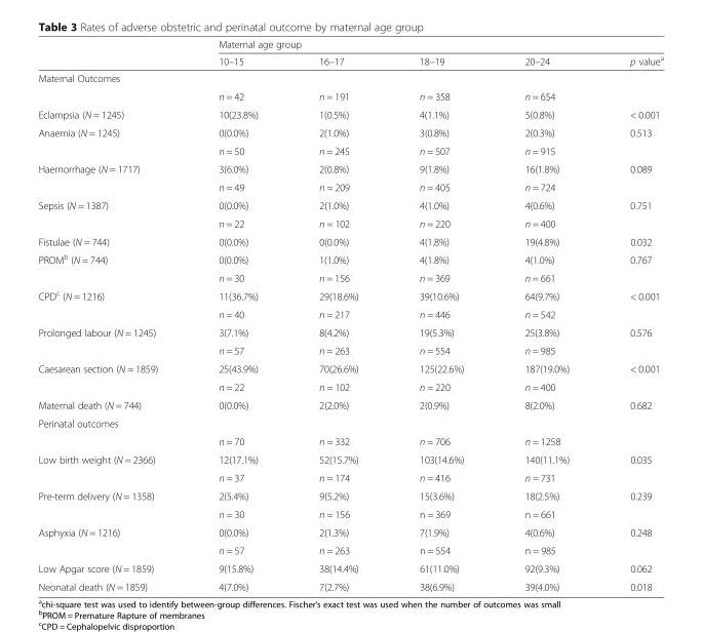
<table><thead><tr><td rowspan="2"></td><td colspan="5">Maternal age group</td></tr><tr><td>10–15</td><td>16–17</td><td>18–19</td><td>20–24</td><td>p value<sup>a</sup></td></tr></thead><tbody><tr><td colspan="6">Maternal Outcomes</td></tr><tr><td></td><td>n = 42</td><td>n = 191</td><td>n = 358</td><td>n = 654</td><td></td></tr><tr><td>Eclampsia (N = 1245)</td><td>10(23.8%)</td><td>1(0.5%)</td><td>4(1.1%)</td><td>5(0.8%)</td><td>&lt; 0.001</td></tr><tr><td rowspan="2">Anaemia (N = 1245)</td><td>0(0.0%)</td><td>2(1.0%)</td><td>3(0.8%)</td><td>2(0.3%)</td><td>0.513</td></tr><tr><td>n = 50</td><td>n = 245</td><td>n = 507</td><td>n = 915</td><td></td></tr><tr><td rowspan="2">Haemorrhage (N = 1717)</td><td>3(6.0%)</td><td>2(0.8%)</td><td>9(1.8%)</td><td>16(1.8%)</td><td>0.089</td></tr><tr><td>n = 49</td><td>n = 209</td><td>n = 405</td><td>n = 724</td><td></td></tr><tr><td rowspan="2">Sepsis (N = 1387)</td><td>0(0.0%)</td><td>2(1.0%)</td><td>4(1.0%)</td><td>4(0.6%)</td><td>0.751</td></tr><tr><td>n = 22</td><td>n = 102</td><td>n = 220</td><td>n = 400</td><td></td></tr><tr><td>Fistulae (N = 744)</td><td>0(0.0%)</td><td>0(0.0%)</td><td>4(1.8%)</td><td>19(4.8%)</td><td>0.032</td></tr><tr><td rowspan="2">PROM<sup>b</sup> (N = 744)</td><td>0(0.0%)</td><td>1(1.0%)</td><td>4(1.8%)</td><td>4(1.0%)</td><td>0.767</td></tr><tr><td>n = 30</td><td>n = 156</td><td>n = 369</td><td>n = 661</td><td></td></tr><tr><td rowspan="2">CPD<sup>c</sup> (N = 1216)</td><td>11(36.7%)</td><td>29(18.6%)</td><td>39(10.6%)</td><td>64(9.7%)</td><td>&lt; 0.001</td></tr><tr><td>n = 40</td><td>n = 217</td><td>n = 446</td><td>n = 542</td><td></td></tr><tr><td rowspan="2">Prolonged labour (N = 1245)</td><td>3(7.1%)</td><td>8(4.2%)</td><td>19(5.3%)</td><td>25(3.8%)</td><td>0.576</td></tr><tr><td>n = 57</td><td>n = 263</td><td>n = 554</td><td>n = 985</td><td></td></tr><tr><td rowspan="2">Caesarean section (N = 1859)</td><td>25(43.9%)</td><td>70(26.6%)</td><td>125(22.6%)</td><td>187(19.0%)</td><td>&lt; 0.001</td></tr><tr><td>n = 22</td><td>n = 102</td><td>n = 220</td><td>n = 400</td><td></td></tr><tr><td>Maternal death (N = 744)</td><td>0(0.0%)</td><td>2(2.0%)</td><td>2(0.9%)</td><td>8(2.0%)</td><td>0.682</td></tr><tr><td colspan="6">Perinatal outcomes</td></tr><tr><td></td><td>n = 70</td><td>n = 332</td><td>n = 706</td><td>n = 1258</td><td></td></tr><tr><td rowspan="2">Low birth weight (N = 2366)</td><td>12(17.1%)</td><td>52(15.7%)</td><td>103(14.6%)</td><td>140(11.1%)</td><td>0.035</td></tr><tr><td>n = 37</td><td>n = 174</td><td>n = 416</td><td>n = 731</td><td></td></tr><tr><td rowspan="2">Pre-term delivery (N = 1358)</td><td>2(5.4%)</td><td>9(5.2%)</td><td>15(3.6%)</td><td>18(2.5%)</td><td>0.239</td></tr><tr><td>n = 30</td><td>n = 156</td><td>n = 369</td><td>n = 661</td><td></td></tr><tr><td rowspan="2">Asphyxia (N = 1216)</td><td>0(0.0%)</td><td>2(1.3%)</td><td>7(1.9%)</td><td>4(0.6%)</td><td>0.248</td></tr><tr><td>n = 57</td><td>n = 263</td><td>n = 554</td><td>n = 985</td><td></td></tr><tr><td>Low Apgar score (N = 1859)</td><td>9(15.8%)</td><td>38(14.4%)</td><td>61(11.0%)</td><td>92(9.3%)</td><td>0.062</td></tr><tr><td>Neonatal death (N = 1859)</td><td>4(7.0%)</td><td>7(2.7%)</td><td>38(6.9%)</td><td>39(4.0%)</td><td>0.018</td></tr></tbody></table>